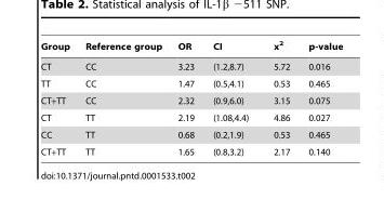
<table><thead><tr><td>Group</td><td>Reference group</td><td>OR</td><td>CI</td><td>x<sup>2</sup></td><td>p-value</td></tr></thead><tbody><tr><td>CT</td><td>CC</td><td>3.23</td><td>(1.2,8.7)</td><td>5.72</td><td>0.016</td></tr><tr><td>TT</td><td>CC</td><td>1.47</td><td>(0.5,4.1)</td><td>0.53</td><td>0.465</td></tr><tr><td>CT+TT</td><td>CC</td><td>2.32</td><td>(0.9,6.0)</td><td>3.15</td><td>0.075</td></tr><tr><td>CT</td><td>TT</td><td>2.19</td><td>(1.08,4.4)</td><td>4.86</td><td>0.027</td></tr><tr><td>CC</td><td>TT</td><td>0.68</td><td>(0.2,1.9)</td><td>0.53</td><td>0.465</td></tr><tr><td>CT+TT</td><td>TT</td><td>1.65</td><td>(0.8,3.2)</td><td>2.17</td><td>0.140</td></tr></tbody></table>